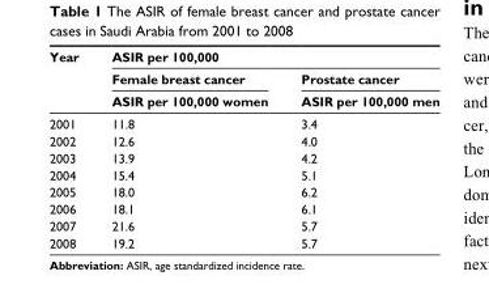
<table><thead><tr><td rowspan="3">Year</td><td colspan="2">ASIR per 100,000</td></tr><tr><td rowspan="2">Female breast cancer ASIR per 100,000 women</td><td rowspan="2">Prostate cancer ASIR per 100,000 men</td></tr><tr></tr></thead><tbody><tr><td>2001</td><td>11.8</td><td>3.4</td></tr><tr><td>2002</td><td>12.6</td><td>4.0</td></tr><tr><td>2003</td><td>13.9</td><td>4.2</td></tr><tr><td>2004</td><td>15.4</td><td>5.1</td></tr><tr><td>2005</td><td>18.0</td><td>6.2</td></tr><tr><td>2006</td><td>18.1</td><td>6.1</td></tr><tr><td>2007</td><td>21.6</td><td>5.7</td></tr><tr><td>2008</td><td>19.2</td><td>5.7</td></tr></tbody></table>